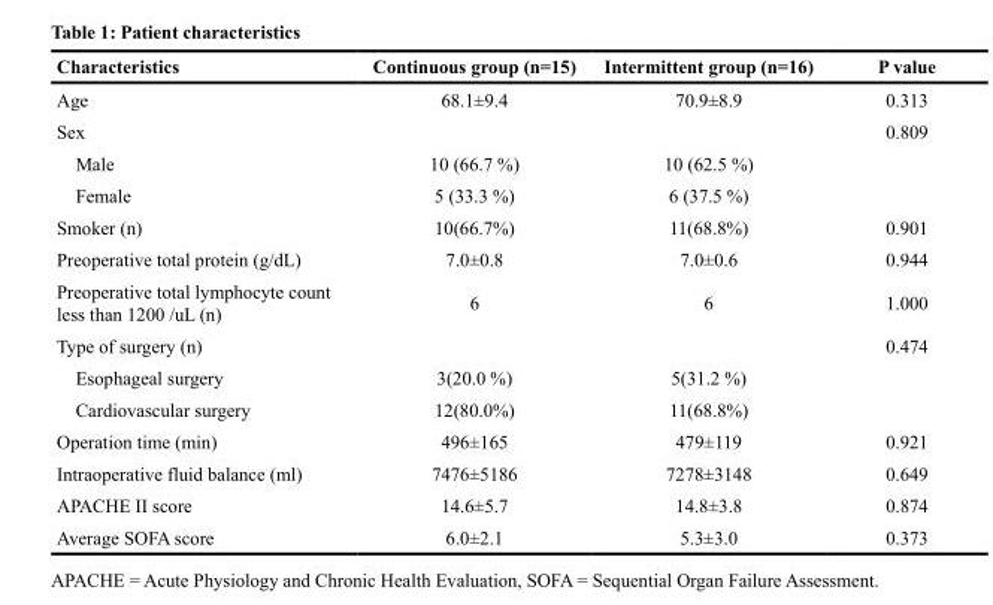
<table><thead><tr><td>Characteristics</td><td>Continuous group (n=15)</td><td>Intermittent group (n=16)</td><td>P value</td></tr></thead><tbody><tr><td>Age</td><td>68.1±9.4</td><td>70.9±8.9</td><td>0.313</td></tr><tr><td>Sex</td><td></td><td></td><td>0.809</td></tr><tr><td>Male</td><td>10 (66.7 %)</td><td>10 (62.5 %)</td><td></td></tr><tr><td>Female</td><td>5 (33.3 %)</td><td>6 (37.5 %)</td><td></td></tr><tr><td>Smoker (n)</td><td>10(66.7%)</td><td>11(68.8%)</td><td>0.901</td></tr><tr><td>Preoperative total protein (g/dL)</td><td>7.0±0.8</td><td>7.0±0.6</td><td>0.944</td></tr><tr><td>Preoperative total lymphocyte count less than 1200 /uL (n)</td><td>6</td><td>6</td><td>1.000</td></tr><tr><td>Type of surgery (n)</td><td></td><td></td><td>0.474</td></tr><tr><td>Esophageal surgery</td><td>3(20.0 %)</td><td>5(31.2 %)</td><td></td></tr><tr><td>Cardiovascular surgery</td><td>12(80.0%)</td><td>11(68.8%)</td><td></td></tr><tr><td>Operation time (min)</td><td>496±165</td><td>479±119</td><td>0.921</td></tr><tr><td>Intraoperative fluid balance (ml)</td><td>7476±5186</td><td>7278±3148</td><td>0.649</td></tr><tr><td>APACHE II score</td><td>14.6±5.7</td><td>14.8±3.8</td><td>0.874</td></tr><tr><td>Average SOFA score</td><td>6.0±2.1</td><td>5.3±3.0</td><td>0.373</td></tr></tbody></table>